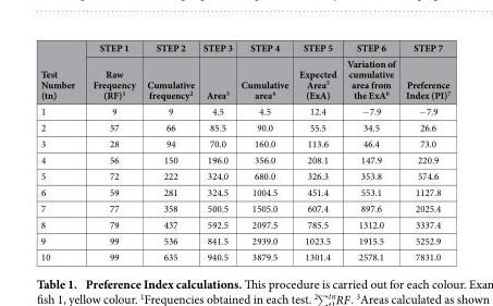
<table><thead><tr><td rowspan="2">Test Number (tn)</td><td rowspan="2">STEP 1 Raw Frequency (RF)<sup>1</sup></td><td rowspan="2">STEP 2 Cumulative frequency<sup>2</sup></td><td rowspan="2">STEP 3 Area<sup>3</sup></td><td rowspan="2">STEP 4 Cumulative area<sup>4</sup></td><td rowspan="2">STEP 5 Expected Area<sup>5</sup> (ExA)</td><td rowspan="2">STEP 6 Variation of cumulative area from the ExA<sup>6</sup></td><td rowspan="2">STEP 7 Preference Index (PI)<sup>7</sup></td></tr><tr></tr></thead><tbody><tr><td>1</td><td>9</td><td>9</td><td>4.5</td><td>4.5</td><td>12.4</td><td>− 7.9</td><td>− 7.9</td></tr><tr><td>2</td><td>57</td><td>66</td><td>85.5</td><td>90.0</td><td>55.5</td><td>34.5</td><td>26.6</td></tr><tr><td>3</td><td>28</td><td>94</td><td>70.0</td><td>160.0</td><td>113.6</td><td>46.4</td><td>73.0</td></tr><tr><td>4</td><td>56</td><td>150</td><td>196.0</td><td>356.0</td><td>208.1</td><td>147.9</td><td>220.9</td></tr><tr><td>5</td><td>72</td><td>222</td><td>324.0</td><td>680.0</td><td>326.3</td><td>353.8</td><td>574.6</td></tr><tr><td>6</td><td>59</td><td>281</td><td>324.5</td><td>1004.5</td><td>451.4</td><td>553.1</td><td>1127.8</td></tr><tr><td>7</td><td>77</td><td>358</td><td>500.5</td><td>1505.0</td><td>607.4</td><td>897.6</td><td>2025.4</td></tr><tr><td>8</td><td>79</td><td>437</td><td>592.5</td><td>2097.5</td><td>785.5</td><td>1312.0</td><td>3337.4</td></tr><tr><td>9</td><td>99</td><td>536</td><td>841.5</td><td>2939.0</td><td>1023.5</td><td>1915.5</td><td>5252.9</td></tr><tr><td>10</td><td>99</td><td>635</td><td>940.5</td><td>3879.5</td><td>1301.4</td><td>2578.1</td><td>7831.0</td></tr></tbody></table>